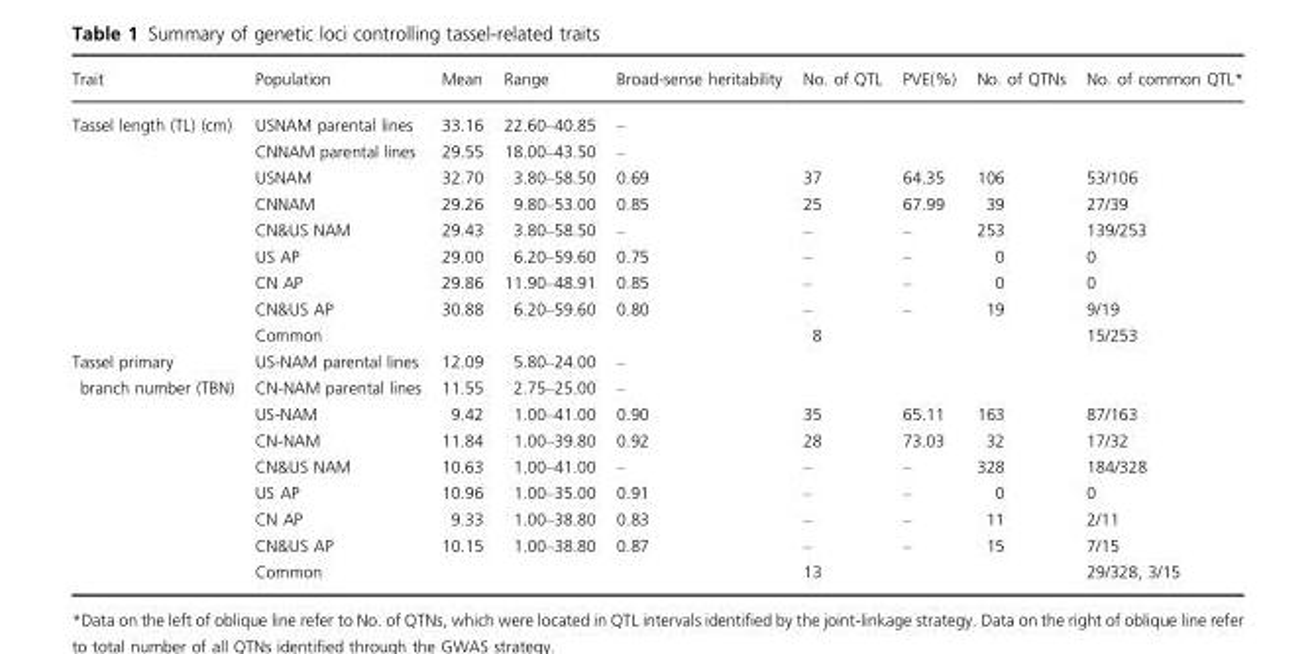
<table><thead><tr><td>Trait</td><td>Population</td><td>Mean</td><td>Range</td><td>Broad-sense heritability</td><td>No. of QTL</td><td>PVE(%)</td><td>No. of QTNs</td><td>No. of common QTL*</td></tr></thead><tbody><tr><td rowspan="9">Tassel length (TL) (cm)</td><td>USNAM parental lines</td><td>33.16</td><td>22.60–40.85</td><td>–</td><td></td><td></td><td></td><td></td></tr><tr><td>CNNAM parental lines</td><td>29.55</td><td>18.00–43.50</td><td>–</td><td></td><td></td><td></td><td></td></tr><tr><td>USNAM</td><td>32.70</td><td>3.80–58.50</td><td>0.69</td><td>37</td><td>64.35</td><td>106</td><td>53/106</td></tr><tr><td>CNNAM</td><td>29.26</td><td>9.80–53.00</td><td>0.85</td><td>25</td><td>67.99</td><td>39</td><td>27/39</td></tr><tr><td>CN&amp;US NAM</td><td>29.43</td><td>3.80–58.50</td><td>–</td><td>–</td><td>–</td><td>253</td><td>139/253</td></tr><tr><td>US AP</td><td>29.00</td><td>6.20–59.60</td><td>0.75</td><td>–</td><td>–</td><td>0</td><td>0</td></tr><tr><td>CN AP</td><td>29.86</td><td>11.90–48.91</td><td>0.85</td><td>–</td><td>–</td><td>0</td><td>0</td></tr><tr><td>CN&amp;US AP</td><td>30.88</td><td>6.20–59.60</td><td>0.80</td><td>–</td><td>–</td><td>19</td><td>9/19</td></tr><tr><td>Common</td><td></td><td></td><td></td><td>8</td><td></td><td></td><td>15/253</td></tr><tr><td rowspan="9">Tassel primary branch number (TBN)</td><td>US-NAM parental lines</td><td>12.09</td><td>5.80–24.00</td><td>–</td><td></td><td></td><td></td><td></td></tr><tr><td>CN-NAM parental lines</td><td>11.55</td><td>2.75–25.00</td><td>–</td><td></td><td></td><td></td><td></td></tr><tr><td>US-NAM</td><td>9.42</td><td>1.00–41.00</td><td>0.90</td><td>35</td><td>65.11</td><td>163</td><td>87/163</td></tr><tr><td>CN-NAM</td><td>11.84</td><td>1.00–39.80</td><td>0.92</td><td>28</td><td>73.03</td><td>32</td><td>17/32</td></tr><tr><td>CN&amp;US NAM</td><td>10.63</td><td>1.00–41.00</td><td>–</td><td>–</td><td>–</td><td>328</td><td>184/328</td></tr><tr><td>US AP</td><td>10.96</td><td>1.00–35.00</td><td>0.91</td><td>–</td><td>–</td><td>0</td><td>0</td></tr><tr><td>CN AP</td><td>9.33</td><td>1.00–38.80</td><td>0.83</td><td>–</td><td>–</td><td>11</td><td>2/11</td></tr><tr><td>CN&amp;US AP</td><td>10.15</td><td>1.00–38.80</td><td>0.87</td><td>–</td><td>–</td><td>15</td><td>7/15</td></tr><tr><td>Common</td><td></td><td></td><td></td><td>13</td><td></td><td></td><td>29/328, 3/15</td></tr></tbody></table>